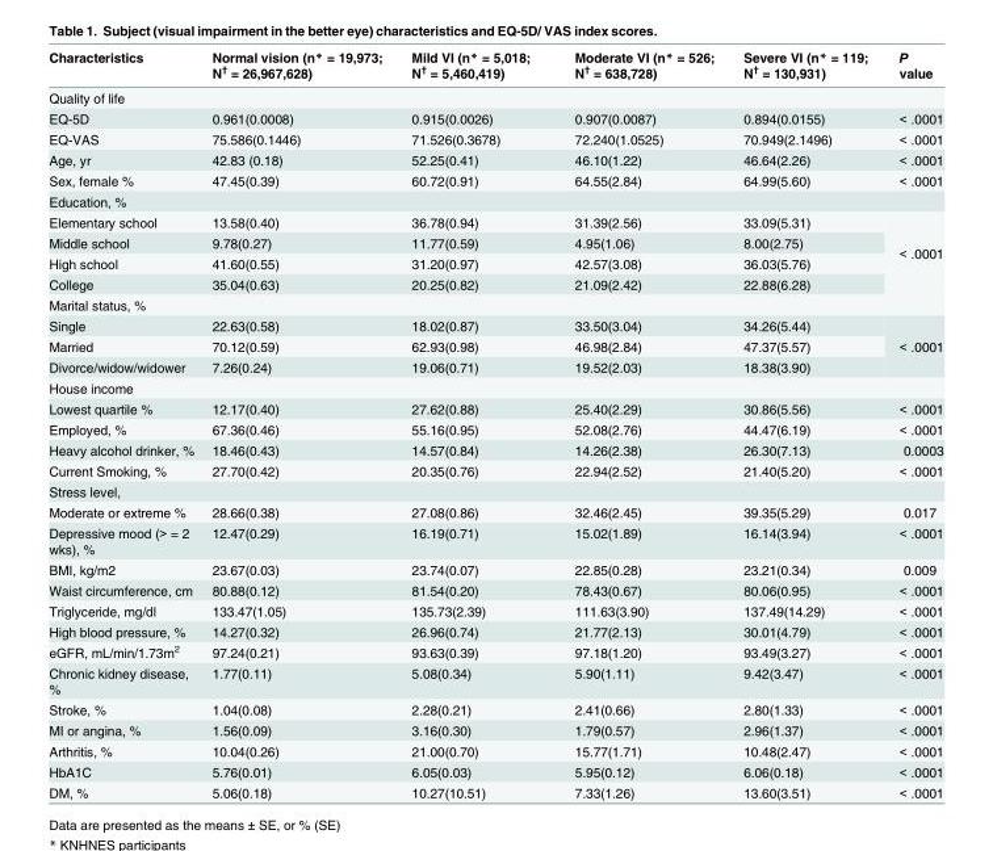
<table><thead><tr><td>Characteristics</td><td>Normal vision (n* = 19,973; N<sup>†</sup> = 26,967,628)</td><td>Mild VI (n* = 5,018; N<sup>†</sup> = 5,460,419)</td><td>Moderate VI (n* = 526; N<sup>†</sup> = 638,728)</td><td>Severe VI (n* = 119; N<sup>†</sup> = 130,931)</td><td>P value</td></tr></thead><tbody><tr><td colspan="6">Quality of life</td></tr><tr><td>EQ-5D</td><td>0.961(0.0008)</td><td>0.915(0.0026)</td><td>0.907(0.0087)</td><td>0.894(0.0155)</td><td>&lt; .0001</td></tr><tr><td>EQ-VAS</td><td>75.586(0.1446)</td><td>71.526(0.3678)</td><td>72.240(1.0525)</td><td>70.949(2.1496)</td><td>&lt; .0001</td></tr><tr><td>Age, yr</td><td>42.83 (0.18)</td><td>52.25(0.41)</td><td>46.10(1.22)</td><td>46.64(2.26)</td><td>&lt; .0001</td></tr><tr><td>Sex, female %</td><td>47.45(0.39)</td><td>60.72(0.91)</td><td>64.55(2.84)</td><td>64.99(5.60)</td><td>&lt; .0001</td></tr><tr><td colspan="6">Education, %</td></tr><tr><td>Elementary school</td><td>13.58(0.40)</td><td>36.78(0.94)</td><td>31.39(2.56)</td><td>33.09(5.31)</td><td rowspan="4">&lt; .0001</td></tr><tr><td>Middle school</td><td>9.78(0.27)</td><td>11.77(0.59)</td><td>4.95(1.06)</td><td>8.00(2.75)</td></tr><tr><td>High school</td><td>41.60(0.55)</td><td>31.20(0.97)</td><td>42.57(3.08)</td><td>36.03(5.76)</td></tr><tr><td>College</td><td>35.04(0.63)</td><td>20.25(0.82)</td><td>21.09(2.42)</td><td>22.88(6.28)</td></tr><tr><td colspan="6">Marital status, %</td></tr><tr><td>Single</td><td>22.63(0.58)</td><td>18.02(0.87)</td><td>33.50(3.04)</td><td>34.26(5.44)</td><td rowspan="3">&lt; .0001</td></tr><tr><td>Married</td><td>70.12(0.59)</td><td>62.93(0.98)</td><td>46.98(2.84)</td><td>47.37(5.57)</td></tr><tr><td>Divorce/widow/widower</td><td>7.26(0.24)</td><td>19.06(0.71)</td><td>19.52(2.03)</td><td>18.38(3.90)</td></tr><tr><td colspan="6">House income</td></tr><tr><td>Lowest quartile %</td><td>12.17(0.40)</td><td>27.62(0.88)</td><td>25.40(2.29)</td><td>30.86(5.56)</td><td>&lt; .0001</td></tr><tr><td>Employed, %</td><td>67.36(0.46)</td><td>55.16(0.95)</td><td>52.08(2.76)</td><td>44.47(6.19)</td><td>&lt; .0001</td></tr><tr><td>Heavy alcohol drinker, %</td><td>18.46(0.43)</td><td>14.57(0.84)</td><td>14.26(2.38)</td><td>26.30(7.13)</td><td>0.0003</td></tr><tr><td>Current Smoking, %</td><td>27.70(0.42)</td><td>20.35(0.76)</td><td>22.94(2.52)</td><td>21.40(5.20)</td><td>&lt; .0001</td></tr><tr><td colspan="6">Stress level,</td></tr><tr><td>Moderate or extreme %</td><td>28.66(0.38)</td><td>27.08(0.86)</td><td>32.46(2.45)</td><td>39.35(5.29)</td><td>0.017</td></tr><tr><td>Depressive mood (&gt; = 2 wks), %</td><td>12.47(0.29)</td><td>16.19(0.71)</td><td>15.02(1.89)</td><td>16.14(3.94)</td><td>&lt; .0001</td></tr><tr><td>BMI, kg/m2</td><td>23.67(0.03)</td><td>23.74(0.07)</td><td>22.85(0.28)</td><td>23.21(0.34)</td><td>0.009</td></tr><tr><td>Waist circumference, cm</td><td>80.88(0.12)</td><td>81.54(0.20)</td><td>78.43(0.67)</td><td>80.06(0.95)</td><td>&lt; .0001</td></tr><tr><td>Triglyceride, mg/dl</td><td>133.47(1.05)</td><td>135.73(2.39)</td><td>111.63(3.90)</td><td>137.49(14.29)</td><td>&lt; .0001</td></tr><tr><td>High blood pressure, %</td><td>14.27(0.32)</td><td>26.96(0.74)</td><td>21.77(2.13)</td><td>30.01(4.79)</td><td>&lt; .0001</td></tr><tr><td>eGFR, mL/min/1.73m<sup>2</sup></td><td>97.24(0.21)</td><td>93.63(0.39)</td><td>97.18(1.20)</td><td>93.49(3.27)</td><td>&lt; .0001</td></tr><tr><td>Chronic kidney disease, %</td><td>1.77(0.11)</td><td>5.08(0.34)</td><td>5.90(1.11)</td><td>9.42(3.47)</td><td>&lt; .0001</td></tr><tr><td>Stroke, %</td><td>1.04(0.08)</td><td>2.28(0.21)</td><td>2.41(0.66)</td><td>2.80(1.33)</td><td>&lt; .0001</td></tr><tr><td>MI or angina, %</td><td>1.56(0.09)</td><td>3.16(0.30)</td><td>1.79(0.57)</td><td>2.96(1.37)</td><td>&lt; .0001</td></tr><tr><td>Arthritis, %</td><td>10.04(0.26)</td><td>21.00(0.70)</td><td>15.77(1.71)</td><td>10.48(2.47)</td><td>&lt; .0001</td></tr><tr><td>HbA1C</td><td>5.76(0.01)</td><td>6.05(0.03)</td><td>5.95(0.12)</td><td>6.06(0.18)</td><td>&lt; .0001</td></tr><tr><td>DM, %</td><td>5.06(0.18)</td><td>10.27(10.51)</td><td>7.33(1.26)</td><td>13.60(3.51)</td><td>&lt; .0001</td></tr></tbody></table>